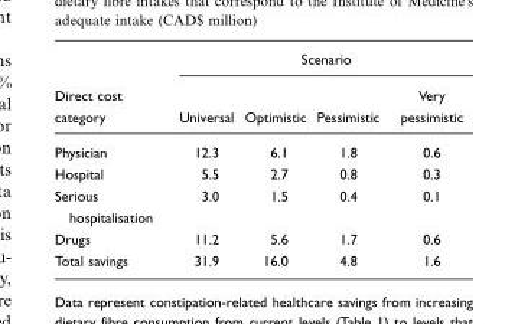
<table><thead><tr><td rowspan="2">Direct cost category</td><td colspan="4">Scenario</td></tr><tr><td>Universal</td><td>Optimistic</td><td>Pessimistic</td><td>Very pessimistic</td></tr></thead><tbody><tr><td>Physician</td><td>12.3</td><td>6.1</td><td>1.8</td><td>0.6</td></tr><tr><td>Hospital</td><td>5.5</td><td>2.7</td><td>0.8</td><td>0.3</td></tr><tr><td>Serious hospitalisation</td><td>3.0</td><td>1.5</td><td>0.4</td><td>0.1</td></tr><tr><td>Drugs</td><td>11.2</td><td>5.6</td><td>1.7</td><td>0.6</td></tr><tr><td>Total savings</td><td>31.9</td><td>16.0</td><td>4.8</td><td>1.6</td></tr></tbody></table>